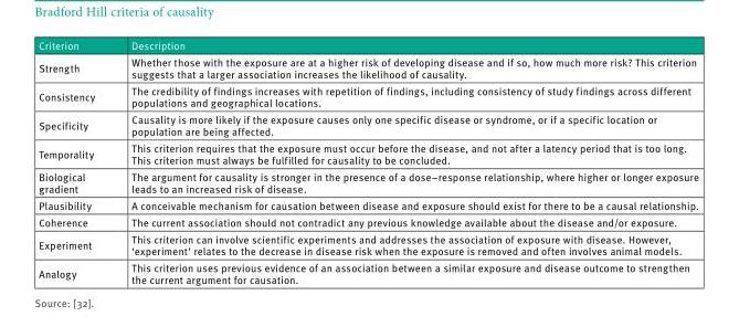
<table><thead><tr><td>Criterion</td><td>Description</td></tr></thead><tbody><tr><td>Strength</td><td>Whether those with the exposure are at a higher risk of developing disease and if so, how much more risk? This criterion suggests that a larger association increases the likelihood of causality.</td></tr><tr><td>Consistency</td><td>The credibility of findings increases with repetition of findings, including consistency of study findings across different populations and geographical locations.</td></tr><tr><td>Specificity</td><td>Causality is more likely if the exposure causes only one specific disease or syndrome, or if a specific location or population are being affected.</td></tr><tr><td>Temporality</td><td>This criterion requires that the exposure must occur before the disease, and not after a latency period that is too long. This criterion must always be fulfilled for causality to be concluded.</td></tr><tr><td>Biological gradient</td><td>The argument for causality is stronger in the presence of a dose–response relationship, where higher or longer exposure leads to an increased risk of disease.</td></tr><tr><td>Plausibility</td><td>A conceivable mechanism for causation between disease and exposure should exist for there to be a causal relationship.</td></tr><tr><td>Coherence</td><td>The current association should not contradict any previous knowledge available about the disease and/or exposure.</td></tr><tr><td>Experiment</td><td>This criterion can involve scientific experiments and addresses the association of exposure with disease. However, ‘experiment’ relates to the decrease in disease risk when the exposure is removed and often involves animal models.</td></tr><tr><td>Analogy</td><td>This criterion uses previous evidence of an association between a similar exposure and disease outcome to strengthen the current argument for causation.</td></tr></tbody></table>